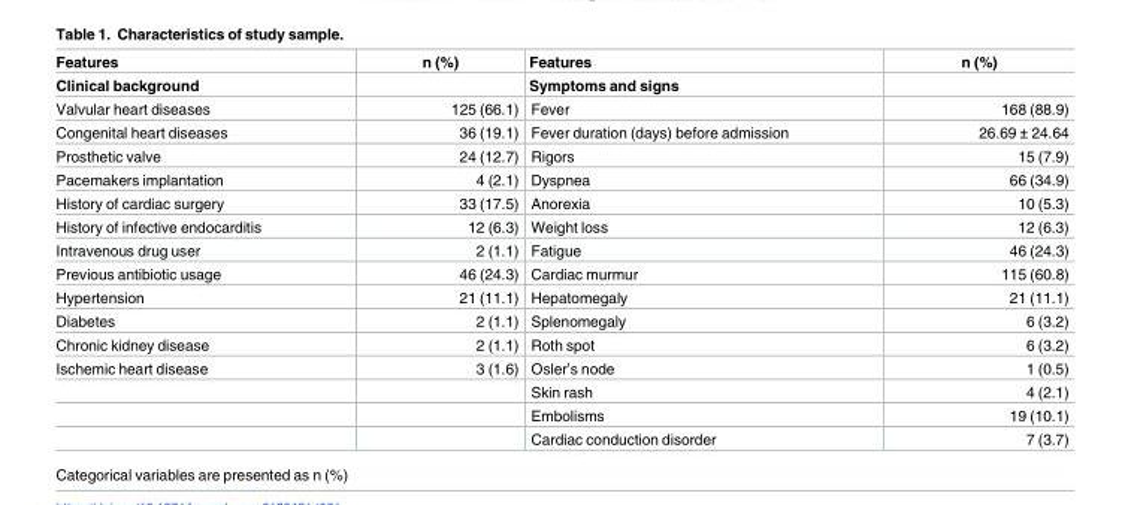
<table><thead><tr><td rowspan="2">Features Clinical background</td><td rowspan="2">n (%)</td><td rowspan="2">Features Symptoms and signs</td><td rowspan="2">n (%)</td></tr><tr></tr></thead><tbody><tr><td>Valvular heart diseases</td><td>125 (66.1)</td><td>Fever</td><td>168 (88.9)</td></tr><tr><td>Congenital heart diseases</td><td>36 (19.1)</td><td>Fever duration (days) before admission</td><td>26.69 ± 24.64</td></tr><tr><td>Prosthetic valve</td><td>24 (12.7)</td><td>Rigors</td><td>15 (7.9)</td></tr><tr><td>Pacemakers implantation</td><td>4 (2.1)</td><td>Dyspnea</td><td>66 (34.9)</td></tr><tr><td>History of cardiac surgery</td><td>33 (17.5)</td><td>Anorexia</td><td>10 (5.3)</td></tr><tr><td>History of infective endocarditis</td><td>12 (6.3)</td><td>Weight loss</td><td>12 (6.3)</td></tr><tr><td>Intravenous drug user</td><td>2 (1.1)</td><td>Fatigue</td><td>46 (24.3)</td></tr><tr><td>Previous antibiotic usage</td><td>46 (24.3)</td><td>Cardiac murmur</td><td>115 (60.8)</td></tr><tr><td>Hypertension</td><td>21 (11.1)</td><td>Hepatomegaly</td><td>21 (11.1)</td></tr><tr><td>Diabetes</td><td>2 (1.1)</td><td>Splenomegaly</td><td>6 (3.2)</td></tr><tr><td>Chronic kidney disease</td><td>2 (1.1)</td><td>Roth spot</td><td>6 (3.2)</td></tr><tr><td rowspan="4">Ischemic heart disease</td><td>3 (1.6)</td><td>Osler’s node</td><td>1 (0.5)</td></tr><tr><td></td><td>Skin rash</td><td>4 (2.1)</td></tr><tr><td></td><td>Embolisms</td><td>19 (10.1)</td></tr><tr><td></td><td>Cardiac conduction disorder</td><td>7 (3.7)</td></tr></tbody></table>